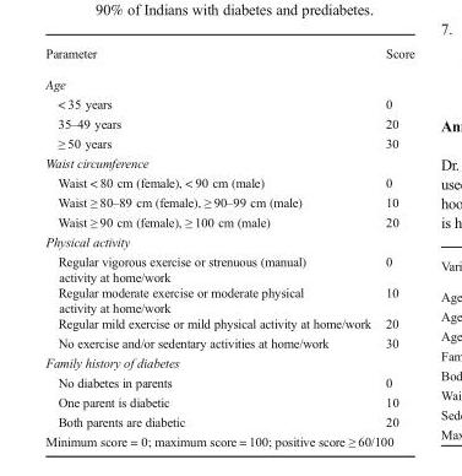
<table><thead><tr><td>Parameter</td><td>Score</td></tr></thead><tbody><tr><td colspan="2">Age</td></tr><tr><td>&lt; 35 years</td><td>0</td></tr><tr><td>35–49 years</td><td>20</td></tr><tr><td>≥ 50 years</td><td>30</td></tr><tr><td colspan="2">Waist circumference</td></tr><tr><td>Waist &lt; 80 cm (female), &lt; 90 cm (male)</td><td>0</td></tr><tr><td>Waist ≥ 80–89 cm (female), ≥ 90–99 cm (male)</td><td>10</td></tr><tr><td>Waist ≥ 90 cm (female), ≥ 100 cm (male)</td><td>20</td></tr><tr><td colspan="2">Physical activity</td></tr><tr><td>Regular vigorous exercise or strenuous (manual) activity at home/work</td><td>0</td></tr><tr><td>Regular moderate exercise or moderate physical activity at home/work</td><td>10</td></tr><tr><td>Regular mild exercise or mild physical activity at home/work</td><td>20</td></tr><tr><td>No exercise and/or sedentary activities at home/work</td><td>30</td></tr><tr><td colspan="2">Family history of diabetes</td></tr><tr><td>No diabetes in parents</td><td>0</td></tr><tr><td>One parent is diabetic</td><td>10</td></tr><tr><td>Both parents are diabetic</td><td>20</td></tr></tbody></table>